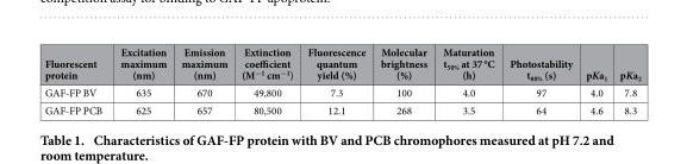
<table><thead><tr><td>Fluorescent protein</td><td>Excitation maximum (nm)</td><td>Emission maximum (nm)</td><td>Extinction coefficient (M<sup>−1</sup> cm<sup>−1</sup>)</td><td>Fluorescence quantum yield (%)</td><td>Molecular brightness (%)</td><td>Maturation t<sub>50%</sub> at 37 <sup>o</sup>C (h)</td><td>Photostability t<sub>80%</sub> (s)</td><td>pKa<sub>1</sub></td><td>pKa<sub>2</sub></td></tr></thead><tbody><tr><td>GAF-FP BV</td><td>635</td><td>670</td><td>49,800</td><td>7.3</td><td>100</td><td>4.0</td><td>97</td><td>4.0</td><td>7.8</td></tr><tr><td>GAF-FP PCB</td><td>625</td><td>657</td><td>80,500</td><td>12.1</td><td>268</td><td>3.5</td><td>64</td><td>4.6</td><td>8.3</td></tr></tbody></table>